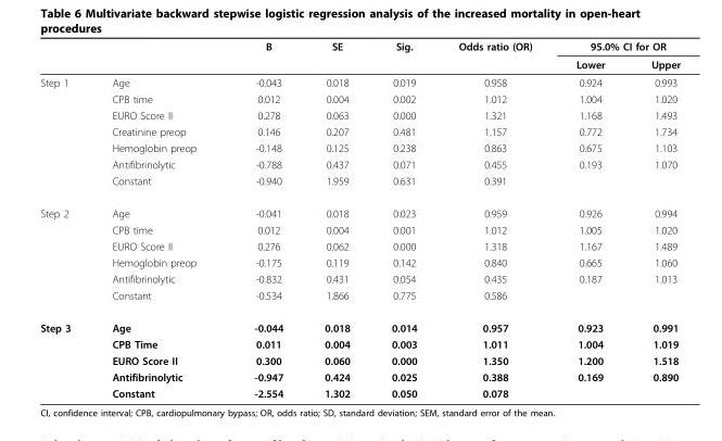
<table><thead><tr><td rowspan="2"></td><td rowspan="2"></td><td rowspan="2">B</td><td rowspan="2">SE</td><td rowspan="2">Sig.</td><td rowspan="2">Odds ratio (OR)</td><td colspan="2">95.0% CI for OR</td></tr><tr><td>Lower</td><td>Upper</td></tr></thead><tbody><tr><td rowspan="7">Step 1</td><td>Age</td><td>-0.043</td><td>0.018</td><td>0.019</td><td>0.958</td><td>0.924</td><td>0.993</td></tr><tr><td>CPB time</td><td>0.012</td><td>0.004</td><td>0.002</td><td>1.012</td><td>1.004</td><td>1.020</td></tr><tr><td>EURO Score II</td><td>0.278</td><td>0.063</td><td>0.000</td><td>1.321</td><td>1.168</td><td>1.493</td></tr><tr><td>Creatinine preop</td><td>0.146</td><td>0.207</td><td>0.481</td><td>1.157</td><td>0.772</td><td>1.734</td></tr><tr><td>Hemoglobin preop</td><td>-0.148</td><td>0.125</td><td>0.238</td><td>0.863</td><td>0.675</td><td>1.103</td></tr><tr><td>Antifibrinolytic</td><td>-0.788</td><td>0.437</td><td>0.071</td><td>0.455</td><td>0.193</td><td>1.070</td></tr><tr><td>Constant</td><td>-0.940</td><td>1.959</td><td>0.631</td><td>0.391</td><td></td><td></td></tr><tr><td rowspan="6">Step 2</td><td>Age</td><td>-0.041</td><td>0.018</td><td>0.023</td><td>0.959</td><td>0.926</td><td>0.994</td></tr><tr><td>CPB time</td><td>0.012</td><td>0.004</td><td>0.001</td><td>1.012</td><td>1.005</td><td>1.020</td></tr><tr><td>EURO Score II</td><td>0.276</td><td>0.062</td><td>0.000</td><td>1.318</td><td>1.167</td><td>1.489</td></tr><tr><td>Hemoglobin preop</td><td>-0.175</td><td>0.119</td><td>0.142</td><td>0.840</td><td>0.665</td><td>1.060</td></tr><tr><td>Antifibrinolytic</td><td>-0.832</td><td>0.431</td><td>0.054</td><td>0.435</td><td>0.187</td><td>1.013</td></tr><tr><td>Constant</td><td>-0.534</td><td>1.866</td><td>0.775</td><td>0.586</td><td></td><td></td></tr><tr><td rowspan="5">Step 3</td><td>Age</td><td>-0.044</td><td>0.018</td><td>0.014</td><td>0.957</td><td>0.923</td><td>0.991</td></tr><tr><td>CPB Time</td><td>0.011</td><td>0.004</td><td>0.003</td><td>1.011</td><td>1.004</td><td>1.019</td></tr><tr><td>EURO Score II</td><td>0.300</td><td>0.060</td><td>0.000</td><td>1.350</td><td>1.200</td><td>1.518</td></tr><tr><td>Antifibrinolytic</td><td>-0.947</td><td>0.424</td><td>0.025</td><td>0.388</td><td>0.169</td><td>0.890</td></tr><tr><td>Constant</td><td>-2.554</td><td>1.302</td><td>0.050</td><td>0.078</td><td></td><td></td></tr></tbody></table>